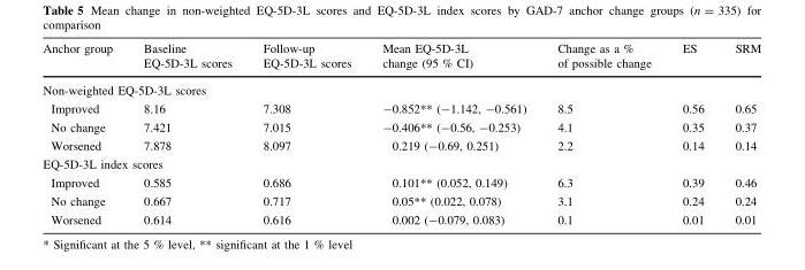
<table><thead><tr><td>Anchor group</td><td>Baseline EQ-5D-3L scores</td><td>Follow-up EQ-5D-3L scores</td><td>Mean EQ-5D-3L change (95 % CI)</td><td>Change as a % of possible change</td><td>ES</td><td>SRM</td></tr></thead><tbody><tr><td colspan="7">Non-weighted EQ-5D-3L scores</td></tr><tr><td>Improved</td><td>8.16</td><td>7.308</td><td>-0.852** (-1.142, -0.561)</td><td>8.5</td><td>0.56</td><td>0.65</td></tr><tr><td>No change</td><td>7.421</td><td>7.015</td><td>-0.406** (-0.56, -0.253)</td><td>4.1</td><td>0.35</td><td>0.37</td></tr><tr><td>Worsened</td><td>7.878</td><td>8.097</td><td>0.219 (-0.69, 0.251)</td><td>2.2</td><td>0.14</td><td>0.14</td></tr><tr><td colspan="7">EQ-5D-3L index scores</td></tr><tr><td>Improved</td><td>0.585</td><td>0.686</td><td>0.101** (0.052, 0.149)</td><td>6.3</td><td>0.39</td><td>0.46</td></tr><tr><td>No change</td><td>0.667</td><td>0.717</td><td>0.05** (0.022, 0.078)</td><td>3.1</td><td>0.24</td><td>0.24</td></tr><tr><td>Worsened</td><td>0.614</td><td>0.616</td><td>0.002 (-0.079, 0.083)</td><td>0.1</td><td>0.01</td><td>0.01</td></tr></tbody></table>